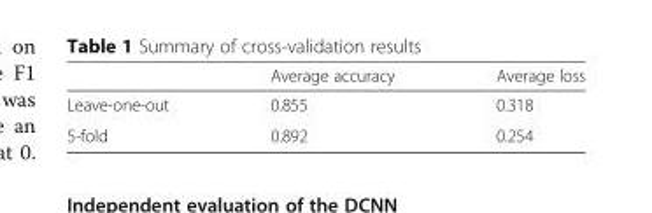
<table><thead><tr><td></td><td>Average accuracy</td><td>Average loss</td></tr></thead><tbody><tr><td>Leave-one-out</td><td>0.855</td><td>0.318</td></tr><tr><td>5-fold</td><td>0.892</td><td>0.254</td></tr></tbody></table>